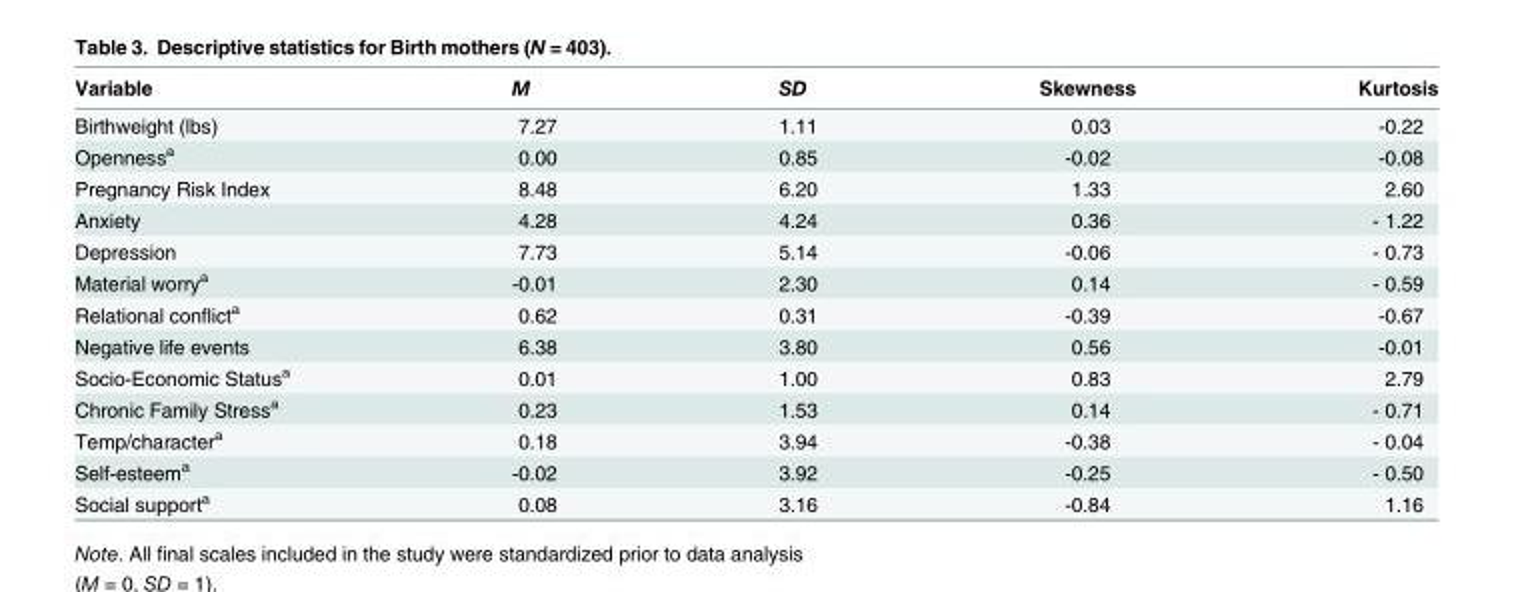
<table><thead><tr><td>Variable</td><td>M</td><td>SD</td><td>Skewness</td><td>Kurtosis</td></tr></thead><tbody><tr><td>Birthweight (lbs)</td><td>7.27</td><td>1.11</td><td>0.03</td><td>-0.22</td></tr><tr><td>Openness<sup>a</sup></td><td>0.00</td><td>0.85</td><td>-0.02</td><td>-0.08</td></tr><tr><td>Pregnancy Risk Index</td><td>8.48</td><td>6.20</td><td>1.33</td><td>2.60</td></tr><tr><td>Anxiety</td><td>4.28</td><td>4.24</td><td>0.36</td><td>- 1.22</td></tr><tr><td>Depression</td><td>7.73</td><td>5.14</td><td>-0.06</td><td>- 0.73</td></tr><tr><td>Material worry<sup>a</sup></td><td>-0.01</td><td>2.30</td><td>0.14</td><td>- 0.59</td></tr><tr><td>Relational conflict<sup>a</sup></td><td>0.62</td><td>0.31</td><td>-0.39</td><td>-0.67</td></tr><tr><td>Negative life events</td><td>6.38</td><td>3.80</td><td>0.56</td><td>-0.01</td></tr><tr><td>Socio-Economic Status<sup>a</sup></td><td>0.01</td><td>1.00</td><td>0.83</td><td>2.79</td></tr><tr><td>Chronic Family Stress<sup>a</sup></td><td>0.23</td><td>1.53</td><td>0.14</td><td>- 0.71</td></tr><tr><td>Temp/character<sup>a</sup></td><td>0.18</td><td>3.94</td><td>-0.38</td><td>- 0.04</td></tr><tr><td>Self-esteem<sup>a</sup></td><td>-0.02</td><td>3.92</td><td>-0.25</td><td>- 0.50</td></tr><tr><td>Social support<sup>a</sup></td><td>0.08</td><td>3.16</td><td>-0.84</td><td>1.16</td></tr></tbody></table>